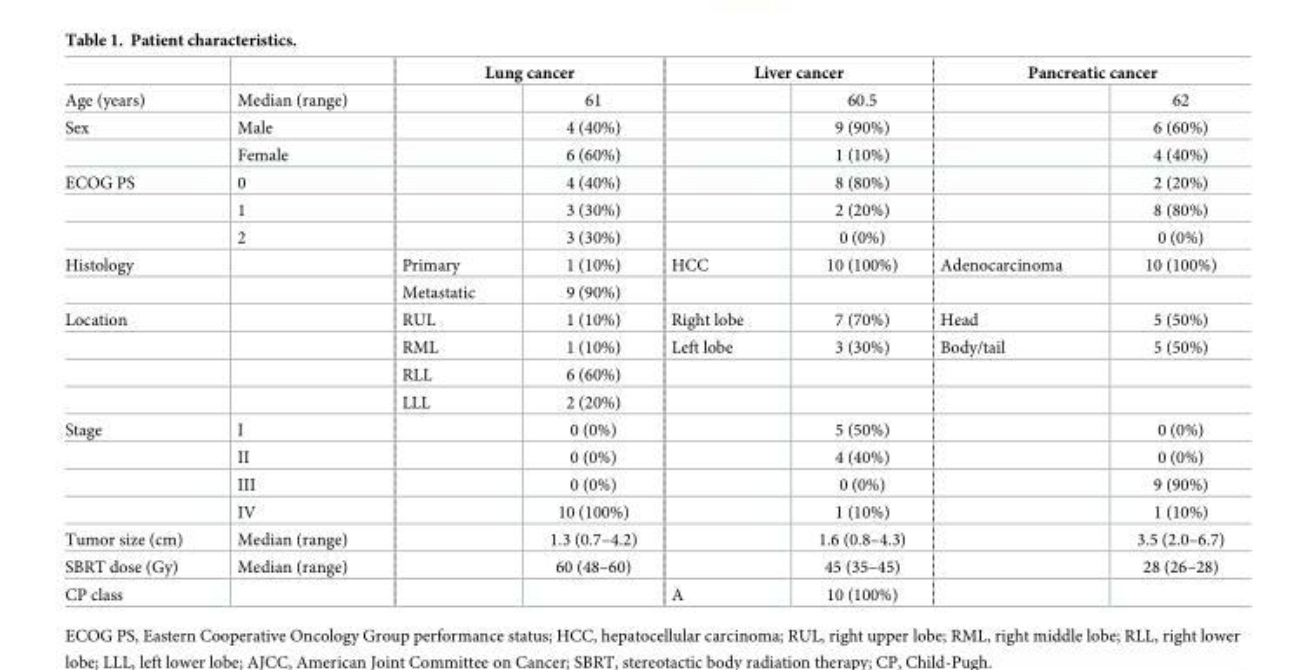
<table><thead><tr><td rowspan="2">Age (years)</td><td rowspan="2">Median (range)</td><td colspan="2">Lung cancer</td><td colspan="2">Liver cancer</td><td colspan="2">Pancreatic cancer</td></tr><tr><td></td><td>61</td><td></td><td>60.5</td><td></td><td>62</td></tr></thead><tbody><tr><td rowspan="2">Sex</td><td>Male</td><td></td><td>4 (40%)</td><td></td><td>9 (90%)</td><td></td><td>6 (60%)</td></tr><tr><td>Female</td><td></td><td>6 (60%)</td><td></td><td>1 (10%)</td><td></td><td>4 (40%)</td></tr><tr><td rowspan="3">ECOG PS</td><td>0</td><td></td><td>4 (40%)</td><td></td><td>8 (80%)</td><td></td><td>2 (20%)</td></tr><tr><td>1</td><td></td><td>3 (30%)</td><td></td><td>2 (20%)</td><td></td><td>8 (80%)</td></tr><tr><td>2</td><td></td><td>3 (30%)</td><td></td><td>0 (0%)</td><td></td><td>0 (0%)</td></tr><tr><td rowspan="2">Histology</td><td></td><td>Primary</td><td>1 (10%)</td><td>HCC</td><td>10 (100%)</td><td>Adenocarcinoma</td><td>10 (100%)</td></tr><tr><td></td><td>Metastatic</td><td>9 (90%)</td><td></td><td></td><td></td><td></td></tr><tr><td rowspan="4">Location</td><td></td><td>RUL</td><td>1 (10%)</td><td>Right lobe</td><td>7 (70%)</td><td>Head</td><td>5 (50%)</td></tr><tr><td></td><td>RML</td><td>1 (10%)</td><td>Left lobe</td><td>3 (30%)</td><td>Body/tail</td><td>5 (50%)</td></tr><tr><td></td><td>RLL</td><td>6 (60%)</td><td></td><td></td><td></td><td></td></tr><tr><td></td><td>LLL</td><td>2 (20%)</td><td></td><td></td><td></td><td></td></tr><tr><td rowspan="4">Stage</td><td>I</td><td></td><td>0 (0%)</td><td></td><td>5 (50%)</td><td></td><td>0 (0%)</td></tr><tr><td>II</td><td></td><td>0 (0%)</td><td></td><td>4 (40%)</td><td></td><td>0 (0%)</td></tr><tr><td>III</td><td></td><td>0 (0%)</td><td></td><td>0 (0%)</td><td></td><td>9 (90%)</td></tr><tr><td>IV</td><td></td><td>10 (100%)</td><td></td><td>1 (10%)</td><td></td><td>1 (10%)</td></tr><tr><td>Tumor size (cm)</td><td>Median (range)</td><td></td><td>1.3 (0.7–4.2)</td><td></td><td>1.6 (0.8–4.3)</td><td></td><td>3.5 (2.0–6.7)</td></tr><tr><td>SBRT dose (Gy)</td><td>Median (range)</td><td></td><td>60 (48–60)</td><td></td><td>45 (35–45)</td><td></td><td>28 (26–28)</td></tr><tr><td>CP class</td><td></td><td></td><td></td><td>A</td><td>10 (100%)</td><td></td><td></td></tr></tbody></table>